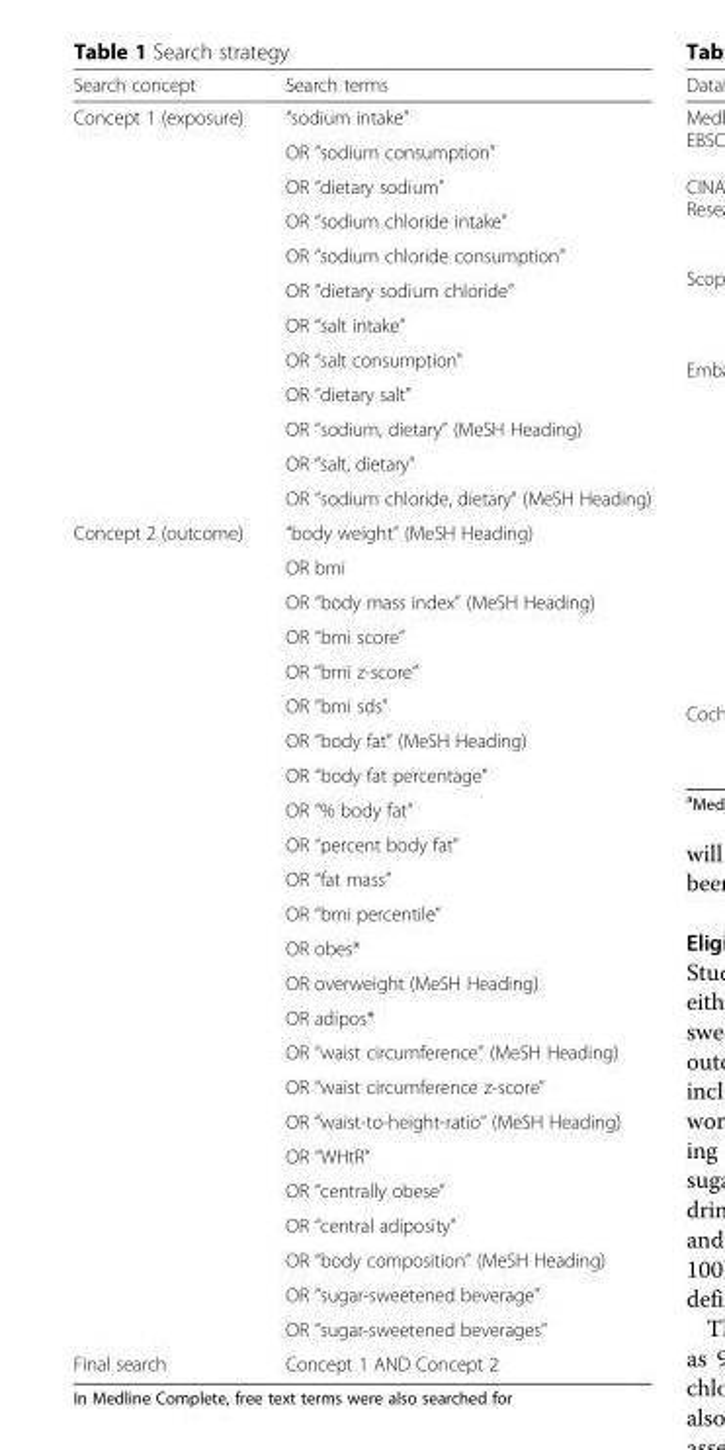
<table><thead><tr><td>Search concept</td><td>Search terms</td></tr></thead><tbody><tr><td rowspan="12">Concept 1 (exposure)</td><td>“sodium intake”</td></tr><tr><td>OR “sodium consumption”</td></tr><tr><td>OR “dietary sodium”</td></tr><tr><td>OR “sodium chloride intake”</td></tr><tr><td>OR “sodium chloride consumption”</td></tr><tr><td>OR “dietary sodium chloride”</td></tr><tr><td>OR “salt intake”</td></tr><tr><td>OR “salt consumption”</td></tr><tr><td>OR “dietary salt”</td></tr><tr><td>OR “sodium, dietary” (MeSH Heading)</td></tr><tr><td>OR “salt, dietary”</td></tr><tr><td>OR “sodium chloride, dietary” (MeSH Heading)</td></tr><tr><td rowspan="24">Concept 2 (outcome)</td><td>“body weight” (MeSH Heading)</td></tr><tr><td>OR bmi</td></tr><tr><td>OR “body mass index” (MeSH Heading)</td></tr><tr><td>OR “bmi score”</td></tr><tr><td>OR “bmi z-score”</td></tr><tr><td>OR “bmi sds”</td></tr><tr><td>OR “body fat” (MeSH Heading)</td></tr><tr><td>OR “body fat percentage”</td></tr><tr><td>OR “% body fat”</td></tr><tr><td>OR “percent body fat”</td></tr><tr><td>OR “fat mass”</td></tr><tr><td>OR “bmi percentile”</td></tr><tr><td>OR obes*</td></tr><tr><td>OR overweight (MeSH Heading)</td></tr><tr><td>OR adipos*</td></tr><tr><td>OR “waist circumference” (MeSH Heading)</td></tr><tr><td>OR “waist circumference z-score”</td></tr><tr><td>OR “waist-to-height-ratio” (MeSH Heading)</td></tr><tr><td>OR “WHtR”</td></tr><tr><td>OR “centrally obese”</td></tr><tr><td>OR “central adiposity”</td></tr><tr><td>OR “body composition” (MeSH Heading)</td></tr><tr><td>OR “sugar-sweetened beverage”</td></tr><tr><td>OR “sugar-sweetened beverages”</td></tr><tr><td>Final search</td><td>Concept 1 AND Concept 2</td></tr></tbody></table>